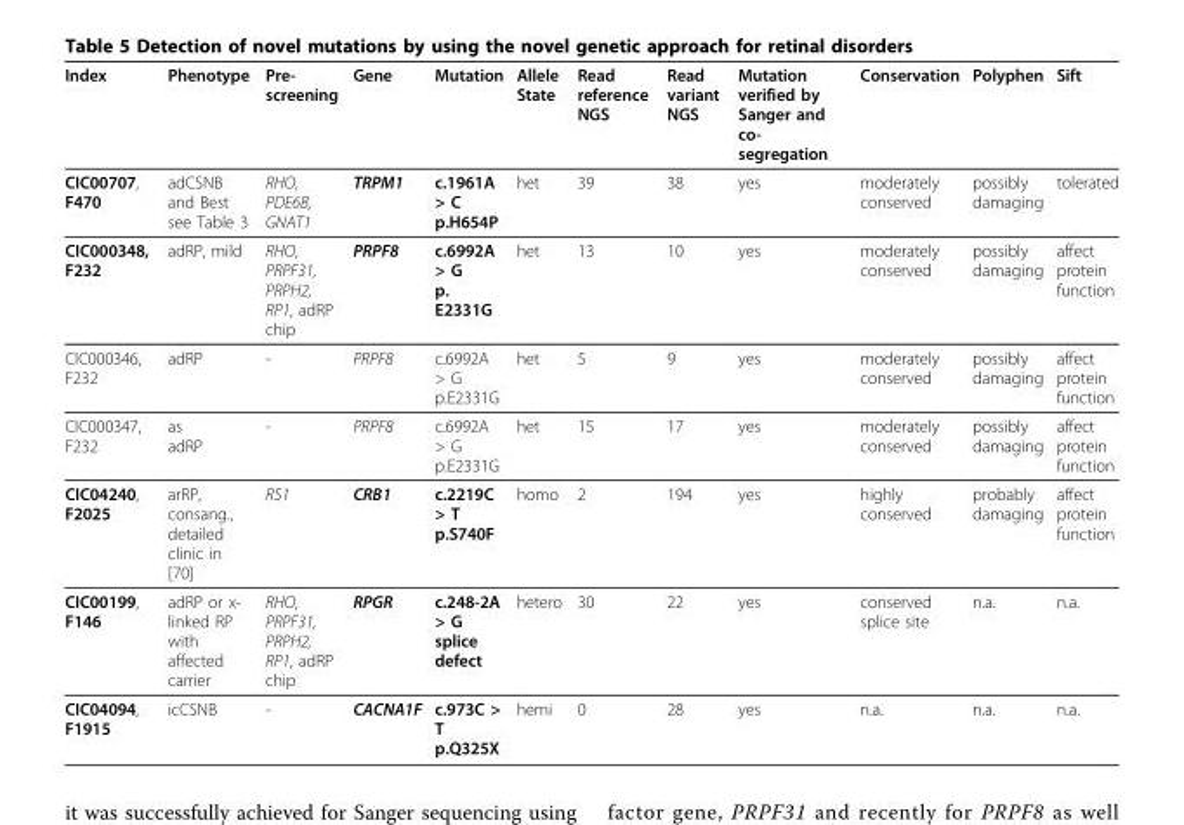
<table><thead><tr><td>Index</td><td>Phenotype</td><td>Pre- screening</td><td>Gene</td><td>Mutation</td><td>Allele State</td><td>Read reference NGS</td><td>Read variant NGS</td><td>Mutation verified by Sanger and co- segregation</td><td>Conservation</td><td>Polyphen</td><td>Sift</td></tr></thead><tbody><tr><td>CIC00707, F470</td><td>adCSNB and Best see Table 3</td><td>RHO, PDE6B, GNAT1</td><td>TRPM1</td><td>c.1961A &gt; C p.H654P</td><td>het</td><td>39</td><td>38</td><td>yes</td><td>moderately conserved</td><td>possibly damaging</td><td>tolerated</td></tr><tr><td>CIC000348, F232</td><td>adRP, mild</td><td>RHO, PRPF31, PRPH2, RP1, adRP chip</td><td>PRPF8</td><td>c.6992A &gt; G p. E2331G</td><td>het</td><td>13</td><td>10</td><td>yes</td><td>moderately conserved</td><td>possibly damaging</td><td>affect protein function</td></tr><tr><td>CIC000346, F232</td><td>adRP</td><td>-</td><td>PRPF8</td><td>c.6992A &gt; G p.E2331G</td><td>het</td><td>5</td><td>9</td><td>yes</td><td>moderately conserved</td><td>possibly damaging</td><td>affect protein function</td></tr><tr><td>CIC000347, F232</td><td>as adRP</td><td>-</td><td>PRPF8</td><td>c.6992A &gt; G p.E2331G</td><td>het</td><td>15</td><td>17</td><td>yes</td><td>moderately conserved</td><td>possibly damaging</td><td>affect protein function</td></tr><tr><td>CIC04240, F2025</td><td>arRP, consang., detailed clinic in [70]</td><td>RS1</td><td>CRB1</td><td>c.2219C &gt; T p.S740F</td><td>homo</td><td>2</td><td>194</td><td>yes</td><td>highly conserved</td><td>probably damaging</td><td>affect protein function</td></tr><tr><td>CIC00199, F146</td><td>adRP or x- linked RP with affected carrier</td><td>RHO, PRPF31, PRPH2, RP1, adRP chip</td><td>RPGR</td><td>c.248-2A &gt; G splice defect</td><td>hetero</td><td>30</td><td>22</td><td>yes</td><td>conserved splice site</td><td>n.a.</td><td>n.a.</td></tr><tr><td>CIC04094, F1915</td><td>icCSNB</td><td>-</td><td>CACNA1F</td><td>c.973C &gt; T p.Q325X</td><td>hemi</td><td>0</td><td>28</td><td>yes</td><td>n.a.</td><td>n.a.</td><td>n.a.</td></tr></tbody></table>